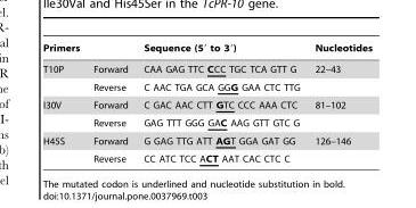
<table><thead><tr><td colspan="2">Primers</td><td rowspan="2">Sequence (5′ to 3′) CAA GAG TTC CCC TGC TCA GTT G</td><td rowspan="2">Nucleotides 22–43</td></tr><tr><td>T10P</td><td>Forward</td></tr></thead><tbody><tr><td></td><td>Reverse</td><td>C AAC TGA GCA GGG GAA CTC TTG</td><td></td></tr><tr><td rowspan="2">I30V</td><td>Forward</td><td>C GAC AAC CTT GTC CCC AAA CTC</td><td>81–102</td></tr><tr><td>Reverse</td><td>GAG TTT GGG GAC AAG GTT GTC G</td><td></td></tr><tr><td rowspan="2">H45S</td><td>Forward</td><td>G GAG TTG ATT AGT GGA GAT GG</td><td>126–146</td></tr><tr><td>Reverse</td><td>CC ATC TCC ACT AAT CAC CTC C</td><td></td></tr></tbody></table>